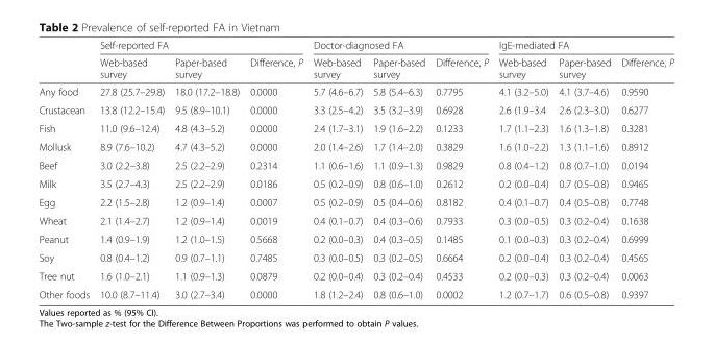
<table><thead><tr><td rowspan="2"></td><td colspan="3">Self-reported FA</td><td colspan="3">Doctor-diagnosed FA</td><td colspan="3">IgE-mediated FA</td></tr><tr><td>Web-based survey</td><td>Paper-based survey</td><td>Difference, P</td><td>Web-based survey</td><td>Paper-based survey</td><td>Difference, P</td><td>Web-based survey</td><td>Paper-based survey</td><td>Difference, P</td></tr></thead><tbody><tr><td>Any food</td><td>27.8 (25.7–29.8)</td><td>18.0 (17.2–18.8)</td><td>0.0000</td><td>5.7 (4.6–6.7)</td><td>5.8 (5.4–6.3)</td><td>0.7795</td><td>4.1 (3.2–5.0)</td><td>4.1 (3.7–4.6)</td><td>0.9590</td></tr><tr><td>Crustacean</td><td>13.8 (12.2–15.4)</td><td>9.5 (8.9–10.1)</td><td>0.0000</td><td>3.3 (2.5–4.2)</td><td>3.5 (3.2–3.9)</td><td>0.6928</td><td>2.6 (1.9–3.4</td><td>2.6 (2.3–3.0)</td><td>0.6277</td></tr><tr><td>Fish</td><td>11.0 (9.6–12.4)</td><td>4.8 (4.3–5.2)</td><td>0.0000</td><td>2.4 (1.7–3.1)</td><td>1.9 (1.6–2.2)</td><td>0.1233</td><td>1.7 (1.1–2.3)</td><td>1.6 (1.3–1.8)</td><td>0.3281</td></tr><tr><td>Mollusk</td><td>8.9 (7.6–10.2)</td><td>4.7 (4.3–5.2)</td><td>0.0000</td><td>2.0 (1.4–2.6)</td><td>1.7 (1.4–2.0)</td><td>0.3829</td><td>1.6 (1.0–2.2)</td><td>1.3 (1.1–1.6)</td><td>0.8912</td></tr><tr><td>Beef</td><td>3.0 (2.2–3.8)</td><td>2.5 (2.2–2.9)</td><td>0.2314</td><td>1.1 (0.6–1.6)</td><td>1.1 (0.9–1.3)</td><td>0.9829</td><td>0.8 (0.4–1.2)</td><td>0.8 (0.7–1.0)</td><td>0.0194</td></tr><tr><td>Milk</td><td>3.5 (2.7–4.3)</td><td>2.5 (2.2–2.9)</td><td>0.0186</td><td>0.5 (0.2–0.9)</td><td>0.8 (0.6–1.0)</td><td>0.2612</td><td>0.2 (0.0–0.4)</td><td>0.7 (0.5–0.8)</td><td>0.9465</td></tr><tr><td>Egg</td><td>2.2 (1.5–2.8)</td><td>1.2 (0.9–1.4)</td><td>0.0007</td><td>0.5 (0.2–0.9)</td><td>0.5 (0.4–0.6)</td><td>0.8182</td><td>0.4 (0.1–0.7)</td><td>0.4 (0.5–0.8)</td><td>0.7748</td></tr><tr><td>Wheat</td><td>2.1 (1.4–2.7)</td><td>1.2 (0.9–1.4)</td><td>0.0019</td><td>0.4 (0.1–0.7)</td><td>0.4 (0.3–0.6)</td><td>0.7933</td><td>0.3 (0.0–0.5)</td><td>0.3 (0.2–0.4)</td><td>0.1638</td></tr><tr><td>Peanut</td><td>1.4 (0.9–1.9)</td><td>1.2 (1.0–1.5)</td><td>0.5668</td><td>0.2 (0.0–0.3)</td><td>0.4 (0.3–0.5)</td><td>0.1485</td><td>0.1 (0.0–0.3)</td><td>0.3 (0.2–0.4)</td><td>0.6999</td></tr><tr><td>Soy</td><td>0.8 (0.4–1.2)</td><td>0.9 (0.7–1.1)</td><td>0.7485</td><td>0.3 (0.0–0.5)</td><td>0.3 (0.2–0.5)</td><td>0.6664</td><td>0.2 (0.0–0.4)</td><td>0.3 (0.2–0.4)</td><td>0.4565</td></tr><tr><td>Tree nut</td><td>1.6 (1.0–2.1)</td><td>1.1 (0.9–1.3)</td><td>0.0879</td><td>0.2 (0.0–0.4)</td><td>0.3 (0.2–0.4)</td><td>0.4533</td><td>0.2 (0.0–0.3)</td><td>0.3 (0.2–0.4)</td><td>0.0063</td></tr><tr><td>Other foods</td><td>10.0 (8.7–11.4)</td><td>3.0 (2.7–3.4)</td><td>0.0000</td><td>1.8 (1.2–2.4)</td><td>0.8 (0.6–1.0)</td><td>0.0002</td><td>1.2 (0.7–1.7)</td><td>0.6 (0.5–0.8)</td><td>0.9397</td></tr></tbody></table>